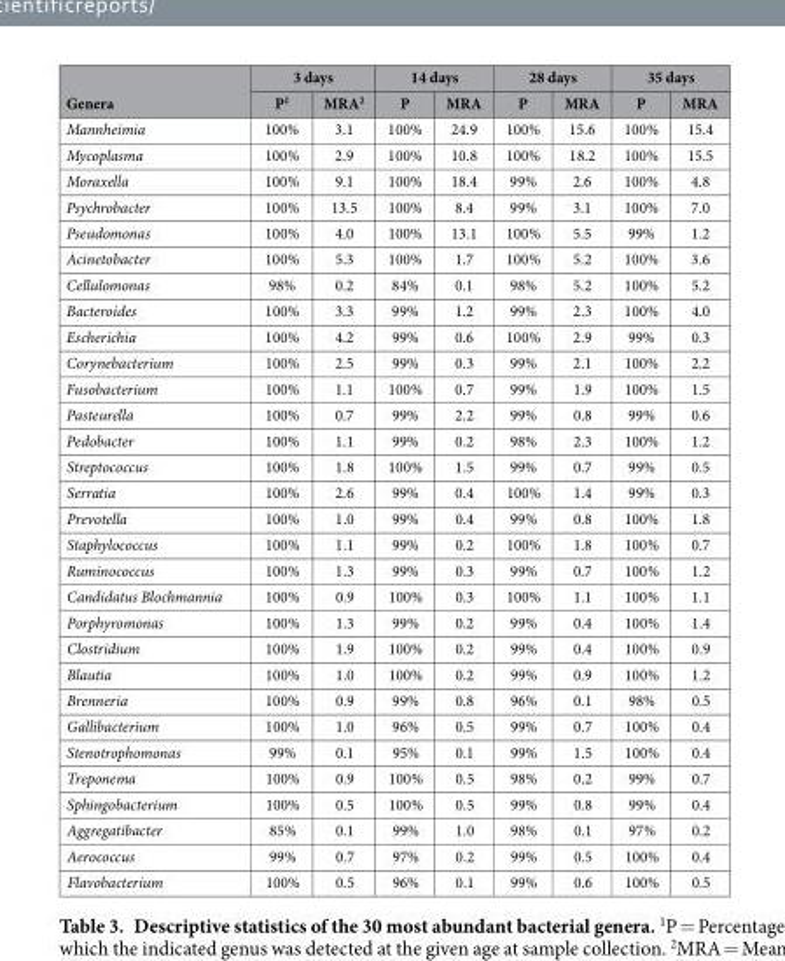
<table><thead><tr><td rowspan="2">Genera</td><td colspan="2">3 days</td><td colspan="2">14 days</td><td colspan="2">28 days</td><td colspan="2">35 days</td></tr><tr><td>P<sup>1</sup></td><td>MRA<sup>2</sup></td><td>P</td><td>MRA</td><td>P</td><td>MRA</td><td>P</td><td>MRA</td></tr></thead><tbody><tr><td>Mannheimia</td><td>100%</td><td>3.1</td><td>100%</td><td>24.9</td><td>100%</td><td>15.6</td><td>100%</td><td>15.4</td></tr><tr><td>Mycoplasma</td><td>100%</td><td>2.9</td><td>100%</td><td>10.8</td><td>100%</td><td>18.2</td><td>100%</td><td>15.5</td></tr><tr><td>Moraxella</td><td>100%</td><td>9.1</td><td>100%</td><td>18.4</td><td>99%</td><td>2.6</td><td>100%</td><td>4.8</td></tr><tr><td>Psychrobacter</td><td>100%</td><td>13.5</td><td>100%</td><td>8.4</td><td>99%</td><td>3.1</td><td>100%</td><td>7.0</td></tr><tr><td>Pseudomonas</td><td>100%</td><td>4.0</td><td>100%</td><td>13.1</td><td>100%</td><td>5.5</td><td>99%</td><td>1.2</td></tr><tr><td>Acinetobacter</td><td>100%</td><td>5.3</td><td>100%</td><td>1.7</td><td>100%</td><td>5.2</td><td>100%</td><td>3.6</td></tr><tr><td>Cellulomonas</td><td>98%</td><td>0.2</td><td>84%</td><td>0.1</td><td>98%</td><td>5.2</td><td>100%</td><td>5.2</td></tr><tr><td>Bacteroides</td><td>100%</td><td>3.3</td><td>99%</td><td>1.2</td><td>99%</td><td>2.3</td><td>100%</td><td>4.0</td></tr><tr><td>Escherichia</td><td>100%</td><td>4.2</td><td>99%</td><td>0.6</td><td>100%</td><td>2.9</td><td>99%</td><td>0.3</td></tr><tr><td>Corynebacterium</td><td>100%</td><td>2.5</td><td>99%</td><td>0.3</td><td>99%</td><td>2.1</td><td>100%</td><td>2.2</td></tr><tr><td>Fusobacterium</td><td>100%</td><td>1.1</td><td>100%</td><td>0.7</td><td>99%</td><td>1.9</td><td>100%</td><td>1.5</td></tr><tr><td>Pasteurella</td><td>100%</td><td>0.7</td><td>99%</td><td>2.2</td><td>99%</td><td>0.8</td><td>99%</td><td>0.6</td></tr><tr><td>Pedobacter</td><td>100%</td><td>1.1</td><td>99%</td><td>0.2</td><td>98%</td><td>2.3</td><td>100%</td><td>1.2</td></tr><tr><td>Streptococcus</td><td>100%</td><td>1.8</td><td>100%</td><td>1.5</td><td>99%</td><td>0.7</td><td>99%</td><td>0.5</td></tr><tr><td>Serratia</td><td>100%</td><td>2.6</td><td>99%</td><td>0.4</td><td>100%</td><td>1.4</td><td>99%</td><td>0.3</td></tr><tr><td>Prevotella</td><td>100%</td><td>1.0</td><td>99%</td><td>0.4</td><td>99%</td><td>0.8</td><td>100%</td><td>1.8</td></tr><tr><td>Staphylococcus</td><td>100%</td><td>1.1</td><td>99%</td><td>0.2</td><td>100%</td><td>1.8</td><td>100%</td><td>0.7</td></tr><tr><td>Ruminococcus</td><td>100%</td><td>1.3</td><td>99%</td><td>0.3</td><td>99%</td><td>0.7</td><td>100%</td><td>1.2</td></tr><tr><td>Candidatus Blochmannia</td><td>100%</td><td>0.9</td><td>100%</td><td>0.3</td><td>100%</td><td>1.1</td><td>100%</td><td>1.1</td></tr><tr><td>Porphyromonas</td><td>100%</td><td>1.3</td><td>99%</td><td>0.2</td><td>99%</td><td>0.4</td><td>100%</td><td>1.4</td></tr><tr><td>Clostridium</td><td>100%</td><td>1.9</td><td>100%</td><td>0.2</td><td>99%</td><td>0.4</td><td>100%</td><td>0.9</td></tr><tr><td>Blautia</td><td>100%</td><td>1.0</td><td>100%</td><td>0.2</td><td>99%</td><td>0.9</td><td>100%</td><td>1.2</td></tr><tr><td>Brenneria</td><td>100%</td><td>0.9</td><td>99%</td><td>0.8</td><td>96%</td><td>0.1</td><td>98%</td><td>0.5</td></tr><tr><td>Gallibacterium</td><td>100%</td><td>1.0</td><td>96%</td><td>0.5</td><td>99%</td><td>0.7</td><td>100%</td><td>0.4</td></tr><tr><td>Stenotrophomonas</td><td>99%</td><td>0.1</td><td>95%</td><td>0.1</td><td>99%</td><td>1.5</td><td>100%</td><td>0.4</td></tr><tr><td>Treponema</td><td>100%</td><td>0.9</td><td>100%</td><td>0.5</td><td>98%</td><td>0.2</td><td>99%</td><td>0.7</td></tr><tr><td>Sphingobacterium</td><td>100%</td><td>0.5</td><td>100%</td><td>0.5</td><td>99%</td><td>0.8</td><td>99%</td><td>0.4</td></tr><tr><td>Aggregatibacter</td><td>85%</td><td>0.1</td><td>99%</td><td>1.0</td><td>98%</td><td>0.1</td><td>97%</td><td>0.2</td></tr><tr><td>Aerococcus</td><td>99%</td><td>0.7</td><td>97%</td><td>0.2</td><td>99%</td><td>0.5</td><td>100%</td><td>0.4</td></tr><tr><td>Flavobacterium</td><td>100%</td><td>0.5</td><td>96%</td><td>0.1</td><td>99%</td><td>0.6</td><td>100%</td><td>0.5</td></tr></tbody></table>